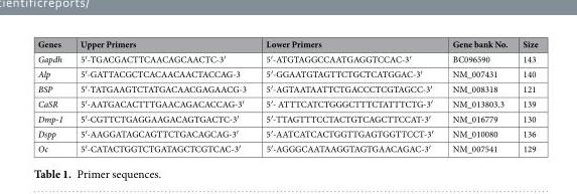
<table><thead><tr><td>Genes</td><td>Upper Primers</td><td>Lower Primers</td><td>Gene bank No.</td><td>Size</td></tr></thead><tbody><tr><td>Gapdh</td><td>5′-TGACGACTTCAACAGCAACTC-3′</td><td>5′-ATGTAGGCCAATGAGGTCCAC-3′</td><td>BC096590</td><td>143</td></tr><tr><td>Alp</td><td>5′-GATTACGCTCACAACAACTACCAG-3</td><td>5′-GGAATGTAGTTCTGCTCATGGAC-3′</td><td>NM_007431</td><td>140</td></tr><tr><td>BSP</td><td>5′-TATGAAGTCTATGACAACGAGAACG-3</td><td>5′-AGTAATAATTCTGACCCTCGTAGCC-3′</td><td>NM_008318</td><td>121</td></tr><tr><td>CaSR</td><td>5′-AATGACACTTTGAACAGACACCAG-3′</td><td>5′- ATTTCATCTGGGCTTTCTATTTCTG-3′</td><td>NM_013803.3</td><td>139</td></tr><tr><td>Dmp-1</td><td>5′-CGTTCTGAGGAAGACAGTGACTC-3′</td><td>5′-TTAGTTTCCTACTGTCAGCTTCCAT-3′</td><td>NM_016779</td><td>130</td></tr><tr><td>Dspp</td><td>5′-AAGGATAGCAGTTCTGACAGCAG-3′</td><td>5′-AATCATCACTGGTTGAGTGGTTCCT-3′</td><td>NM_010080</td><td>136</td></tr><tr><td>Oc</td><td>5′-CATACTGGTCTGATAGCTCGTCAC-3′</td><td>5′-AGGGCAATAAGGTAGTGAACAGAC-3′</td><td>NM_007541</td><td>129</td></tr></tbody></table>